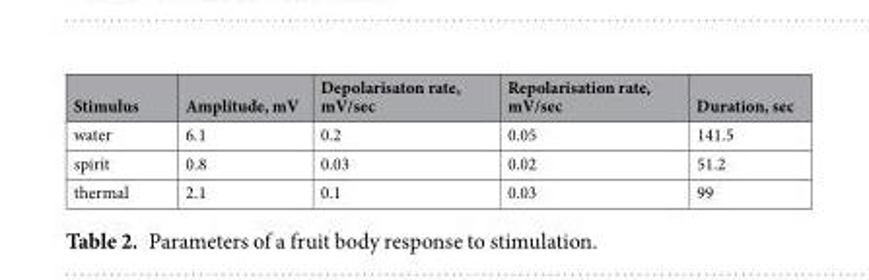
<table><thead><tr><td>Stimulus</td><td>Amplitude, mV</td><td>Depolarisaton rate, mV/sec</td><td>Repolarisation rate, mV/sec</td><td>Duration, sec</td></tr></thead><tbody><tr><td>water</td><td>6.1</td><td>0.2</td><td>0.05</td><td>141.5</td></tr><tr><td>spirit</td><td>0.8</td><td>0.03</td><td>0.02</td><td>51.2</td></tr><tr><td>thermal</td><td>2.1</td><td>0.1</td><td>0.03</td><td>99</td></tr></tbody></table>